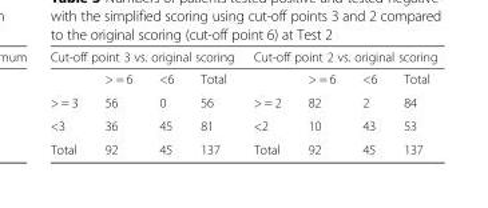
<table><thead><tr><td colspan="4">Cut-off point 3 vs. original scoring</td><td colspan="4">Cut-off point 2 vs. original scoring</td></tr><tr><td></td><td>&gt; = 6</td><td>&lt;6</td><td>Total</td><td></td><td>&gt; = 6</td><td>&lt;6</td><td>Total</td></tr></thead><tbody><tr><td>&gt; = 3</td><td>56</td><td>0</td><td>56</td><td>&gt; = 2</td><td>82</td><td>2</td><td>84</td></tr><tr><td>&lt;3</td><td>36</td><td>45</td><td>81</td><td>&lt;2</td><td>10</td><td>43</td><td>53</td></tr><tr><td>Total</td><td>92</td><td>45</td><td>137</td><td>Total</td><td>92</td><td>45</td><td>137</td></tr></tbody></table>